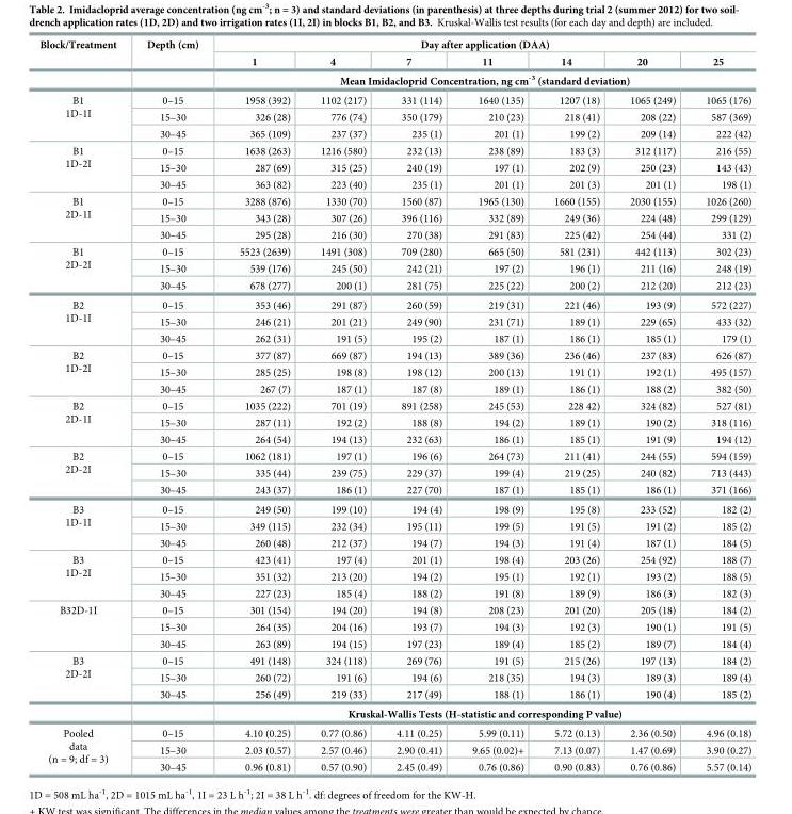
<table><thead><tr><td rowspan="2">Block/Treatment</td><td rowspan="2">Depth (cm)</td><td colspan="7">Day after application (DAA)</td></tr><tr><td>1</td><td>4</td><td>7</td><td>11</td><td>14</td><td>20</td><td>25</td></tr></thead><tbody><tr><td></td><td></td><td colspan="7">Mean Imidacloprid Concentration, ng cm<sup>-3</sup> (standard deviation)</td></tr><tr><td rowspan="3">B1 1D-1I</td><td>0–15</td><td>1958 (392)</td><td>1102 (217)</td><td>331 (114)</td><td>1640 (135)</td><td>1207 (18)</td><td>1065 (249)</td><td>1065 (176)</td></tr><tr><td>15–30</td><td>326 (28)</td><td>776 (74)</td><td>350 (179)</td><td>210 (23)</td><td>218 (41)</td><td>208 (22)</td><td>587 (369)</td></tr><tr><td>30–45</td><td>365 (109)</td><td>237 (37)</td><td>235 (1)</td><td>201 (1)</td><td>199 (2)</td><td>209 (14)</td><td>222 (42)</td></tr><tr><td rowspan="3">B1 1D-2I</td><td>0–15</td><td>1638 (263)</td><td>1216 (580)</td><td>232 (13)</td><td>238 (89)</td><td>183 (3)</td><td>312 (117)</td><td>216 (55)</td></tr><tr><td>15–30</td><td>287 (69)</td><td>315 (25)</td><td>240 (19)</td><td>197 (1)</td><td>202 (9)</td><td>250 (23)</td><td>143 (43)</td></tr><tr><td>30–45</td><td>363 (82)</td><td>223 (40)</td><td>235 (1)</td><td>201 (1)</td><td>201 (3)</td><td>201 (1)</td><td>198 (1)</td></tr><tr><td rowspan="3">B1 2D-1I</td><td>0–15</td><td>3288 (876)</td><td>1330 (70)</td><td>1560 (87)</td><td>1965 (130)</td><td>1660 (155)</td><td>2030 (155)</td><td>1026 (260)</td></tr><tr><td>15–30</td><td>343 (28)</td><td>307 (26)</td><td>396 (116)</td><td>332 (89)</td><td>249 (36)</td><td>224 (48)</td><td>299 (129)</td></tr><tr><td>30–45</td><td>295 (28)</td><td>216 (30)</td><td>270 (38)</td><td>291 (83)</td><td>225 (42)</td><td>254 (44)</td><td>331 (2)</td></tr><tr><td rowspan="3">B1 2D-2I</td><td>0–15</td><td>5523 (2639)</td><td>1491 (308)</td><td>709 (280)</td><td>665 (50)</td><td>581 (231)</td><td>442 (113)</td><td>302 (23)</td></tr><tr><td>15–30</td><td>539 (176)</td><td>245 (50)</td><td>242 (21)</td><td>197 (2)</td><td>196 (1)</td><td>211 (16)</td><td>248 (19)</td></tr><tr><td>30–45</td><td>678 (277)</td><td>200 (1)</td><td>281 (75)</td><td>225 (22)</td><td>200 (2)</td><td>212 (20)</td><td>212 (23)</td></tr><tr><td rowspan="3">B2 1D-1I</td><td>0–15</td><td>353 (46)</td><td>291 (87)</td><td>260 (59)</td><td>219 (31)</td><td>221 (46)</td><td>193 (9)</td><td>572 (227)</td></tr><tr><td>15–30</td><td>246 (21)</td><td>201 (21)</td><td>249 (90)</td><td>231 (71)</td><td>189 (1)</td><td>229 (65)</td><td>433 (32)</td></tr><tr><td>30–45</td><td>262 (31)</td><td>191 (5)</td><td>195 (2)</td><td>187 (1)</td><td>186 (1)</td><td>185 (1)</td><td>179 (1)</td></tr><tr><td rowspan="3">B2 1D-2I</td><td>0–15</td><td>377 (87)</td><td>669 (87)</td><td>194 (13)</td><td>389 (36)</td><td>236 (46)</td><td>237 (83)</td><td>626 (87)</td></tr><tr><td>15–30</td><td>285 (25)</td><td>198 (8)</td><td>198 (12)</td><td>200 (13)</td><td>191 (1)</td><td>192 (1)</td><td>495 (157)</td></tr><tr><td>30–45</td><td>267 (7)</td><td>187 (1)</td><td>187 (8)</td><td>189 (1)</td><td>186 (1)</td><td>188 (2)</td><td>382 (50)</td></tr><tr><td rowspan="3">B2 2D-1I</td><td>0–15</td><td>1035 (222)</td><td>701 (19)</td><td>891 (258)</td><td>245 (53)</td><td>228 42)</td><td>324 (82)</td><td>527 (81)</td></tr><tr><td>15–30</td><td>287 (11)</td><td>192 (2)</td><td>188 (8)</td><td>194 (2)</td><td>189 (1)</td><td>190 (2)</td><td>318 (116)</td></tr><tr><td>30–45</td><td>264 (54)</td><td>194 (13)</td><td>232 (63)</td><td>186 (1)</td><td>185 (1)</td><td>191 (9)</td><td>194 (12)</td></tr><tr><td rowspan="3">B2 2D-2I</td><td>0–15</td><td>1062 (181)</td><td>197 (1)</td><td>196 (6)</td><td>264 (73)</td><td>211 (41)</td><td>244 (55)</td><td>594 (159)</td></tr><tr><td>15–30</td><td>335 (44)</td><td>239 (75)</td><td>229 (37)</td><td>199 (4)</td><td>219 (25)</td><td>240 (82)</td><td>713 (443)</td></tr><tr><td>30–45</td><td>243 (37)</td><td>186 (1)</td><td>227 (70)</td><td>187 (1)</td><td>185 (1)</td><td>186 (1)</td><td>371 (166)</td></tr><tr><td rowspan="3">B3 1D-1I</td><td>0–15</td><td>249 (50)</td><td>199 (10)</td><td>194 (4)</td><td>198 (9)</td><td>195 (8)</td><td>233 (52)</td><td>182 (2)</td></tr><tr><td>15–30</td><td>349 (115)</td><td>232 (34)</td><td>195 (11)</td><td>199 (5)</td><td>191 (5)</td><td>191 (2)</td><td>185 (2)</td></tr><tr><td>30–45</td><td>260 (48)</td><td>212 (37)</td><td>194 (7)</td><td>194 (3)</td><td>191 (4)</td><td>187 (1)</td><td>184 (5)</td></tr><tr><td rowspan="3">B3 1D-2I</td><td>0–15</td><td>423 (41)</td><td>197 (4)</td><td>201 (1)</td><td>198 (4)</td><td>203 (26)</td><td>254 (92)</td><td>188 (7)</td></tr><tr><td>15–30</td><td>351 (32)</td><td>213 (20)</td><td>194 (2)</td><td>195 (1)</td><td>192 (1)</td><td>193 (2)</td><td>188 (5)</td></tr><tr><td>30–45</td><td>227 (23)</td><td>185 (4)</td><td>188 (2)</td><td>191 (8)</td><td>189 (9)</td><td>186 (3)</td><td>182 (3)</td></tr><tr><td rowspan="3">B32D-1I</td><td>0–15</td><td>301 (154)</td><td>194 (20)</td><td>194 (8)</td><td>208 (23)</td><td>201 (20)</td><td>205 (18)</td><td>184 (2)</td></tr><tr><td>15–30</td><td>264 (35)</td><td>204 (16)</td><td>193 (7)</td><td>194 (3)</td><td>192 (3)</td><td>190 (1)</td><td>191 (5)</td></tr><tr><td>30–45</td><td>263 (89)</td><td>194 (15)</td><td>197 (23)</td><td>189 (4)</td><td>185 (2)</td><td>189 (7)</td><td>184 (4)</td></tr><tr><td rowspan="4">B3 2D-2I</td><td>0–15</td><td>491 (148)</td><td>324 (118)</td><td>269 (76)</td><td>191 (5)</td><td>215 (26)</td><td>197 (13)</td><td>184 (2)</td></tr><tr><td>15–30</td><td>260 (72)</td><td>191 (6)</td><td>194 (6)</td><td>218 (35)</td><td>194 (3)</td><td>189 (3)</td><td>189 (4)</td></tr><tr><td>30–45</td><td>256 (49)</td><td>219 (33)</td><td>217 (49)</td><td>188 (1)</td><td>186 (1)</td><td>190 (4)</td><td>185 (2)</td></tr><tr><td></td><td colspan="7">Kruskal-Wallis Tests (H-statistic and corresponding P value)</td></tr><tr><td rowspan="3">Pooled data (n = 9; df = 3)</td><td>0–15</td><td>4.10 (0.25)</td><td>0.77 (0.86)</td><td>4.11 (0.25)</td><td>5.99 (0.11)</td><td>5.72 (0.13)</td><td>2.36 (0.50)</td><td>4.96 (0.18)</td></tr><tr><td>15–30</td><td>2.03 (0.57)</td><td>2.57 (0.46)</td><td>2.90 (0.41)</td><td>9.65 (0.02)+</td><td>7.13 (0.07)</td><td>1.47 (0.69)</td><td>3.90 (0.27)</td></tr><tr><td>30–45</td><td>0.96 (0.81)</td><td>0.57 (0.90)</td><td>2.45 (0.49)</td><td>0.76 (0.86)</td><td>0.90 (0.83)</td><td>0.76 (0.86)</td><td>5.57 (0.14)</td></tr></tbody></table>